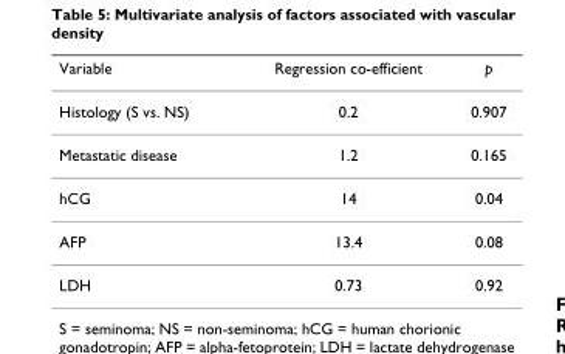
<table><thead><tr><td>Variable</td><td>Regression co-efficient</td><td>p</td></tr></thead><tbody><tr><td>Histology (S vs. NS)</td><td>0.2</td><td>0.907</td></tr><tr><td>Metastatic disease</td><td>1.2</td><td>0.165</td></tr><tr><td>hCG</td><td>14</td><td>0.04</td></tr><tr><td>AFP</td><td>13.4</td><td>0.08</td></tr><tr><td>LDH</td><td>0.73</td><td>0.92</td></tr></tbody></table>